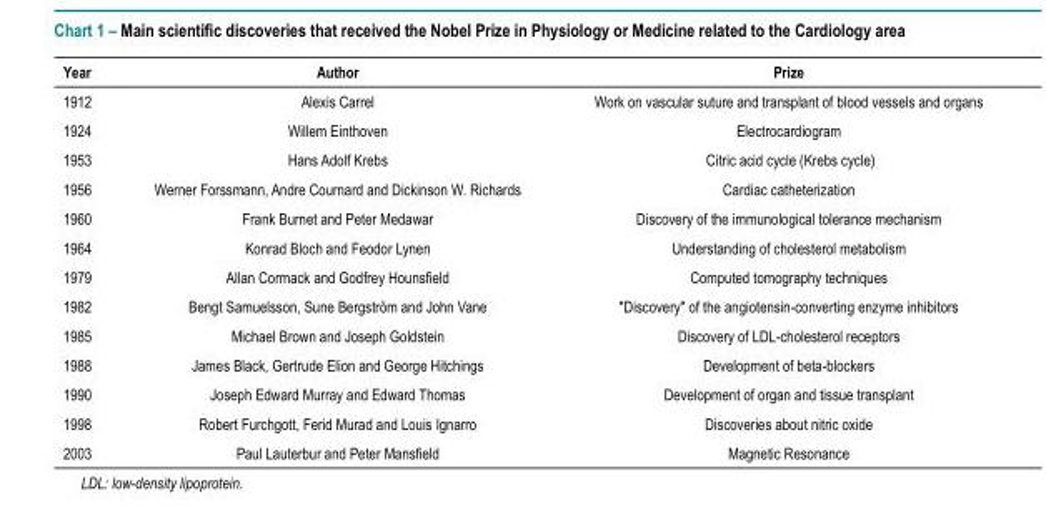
<table><thead><tr><td>Year</td><td>Author</td><td>Prize</td></tr></thead><tbody><tr><td>1912</td><td>Alexis Carrel</td><td>Work on vascular suture and transplant of blood vessels and organs</td></tr><tr><td>1924</td><td>Willem Einthoven</td><td>Electrocardiogram</td></tr><tr><td>1953</td><td>Hans Adolf Krebs</td><td>Citric acid cycle (Krebs cycle)</td></tr><tr><td>1956</td><td>Werner Forssmann, Andre Cournard and Dickinson W. Richards</td><td>Cardiac catheterization</td></tr><tr><td>1960</td><td>Frank Burnet and Peter Medawar</td><td>Discovery of the immunological tolerance mechanism</td></tr><tr><td>1964</td><td>Konrad Bloch and Feodor Lynen</td><td>Understanding of cholesterol metabolism</td></tr><tr><td>1979</td><td>Allan Cormack and Godfrey Hounsfield</td><td>Computed tomography techniques</td></tr><tr><td>1982</td><td>Bengt Samuelsson, Sune Bergström and John Vane</td><td>&quot;Discovery&quot; of the angiotensin-converting enzyme inhibitors</td></tr><tr><td>1985</td><td>Michael Brown and Joseph Goldstein</td><td>Discovery of LDL-cholesterol receptors</td></tr><tr><td>1988</td><td>James Black, Gertrude Elion and George Hitchings</td><td>Development of beta-blockers</td></tr><tr><td>1990</td><td>Joseph Edward Murray and Edward Thomas</td><td>Development of organ and tissue transplant</td></tr><tr><td>1998</td><td>Robert Furchgott, Ferid Murad and Louis Ignarro</td><td>Discoveries about nitric oxide</td></tr><tr><td>2003</td><td>Paul Lauterbur and Peter Mansfield</td><td>Magnetic Resonance</td></tr></tbody></table>